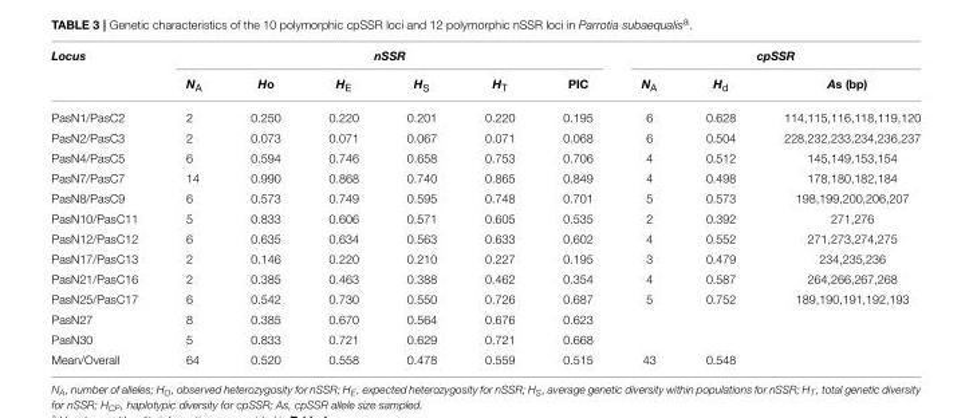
<table><thead><tr><td rowspan="2">Locus</td><td colspan="6">nSSR</td><td colspan="3">cpSSR</td></tr><tr><td>N<sub>A</sub></td><td>Ho</td><td>H<sub>E</sub></td><td>H<sub>S</sub></td><td>H<sub>T</sub></td><td>PIC</td><td>N<sub>A</sub></td><td>H<sub>d</sub></td><td>As (bp)</td></tr></thead><tbody><tr><td>PasN1/PasC2</td><td>2</td><td>0.250</td><td>0.220</td><td>0.201</td><td>0.220</td><td>0.195</td><td>6</td><td>0.628</td><td>114,115,116,118,119,120</td></tr><tr><td>PasN2/PasC3</td><td>2</td><td>0.073</td><td>0.071</td><td>0.067</td><td>0.071</td><td>0.068</td><td>6</td><td>0.504</td><td>228,232,233,234,236,237</td></tr><tr><td>PasN4/PasC5</td><td>6</td><td>0.594</td><td>0.746</td><td>0.658</td><td>0.753</td><td>0.706</td><td>4</td><td>0.512</td><td>145,149,153,154</td></tr><tr><td>PasN7/PasC7</td><td>14</td><td>0.990</td><td>0.868</td><td>0.740</td><td>0.865</td><td>0.849</td><td>4</td><td>0.498</td><td>178,180,182,184</td></tr><tr><td>PasN8/PasC9</td><td>6</td><td>0.573</td><td>0.749</td><td>0.595</td><td>0.748</td><td>0.701</td><td>5</td><td>0.573</td><td>198,199,200,206,207</td></tr><tr><td>PasN10/PasC11</td><td>5</td><td>0.833</td><td>0.606</td><td>0.571</td><td>0.605</td><td>0.535</td><td>2</td><td>0.392</td><td>271,276</td></tr><tr><td>PasN12/PasC12</td><td>6</td><td>0.635</td><td>0.634</td><td>0.563</td><td>0.633</td><td>0.602</td><td>4</td><td>0.552</td><td>271,273,274,275</td></tr><tr><td>PasN17/PasC13</td><td>2</td><td>0.146</td><td>0.220</td><td>0.210</td><td>0.227</td><td>0.195</td><td>3</td><td>0.479</td><td>234,235,236</td></tr><tr><td>PasN21/PasC16</td><td>2</td><td>0.385</td><td>0.463</td><td>0.388</td><td>0.462</td><td>0.354</td><td>4</td><td>0.587</td><td>264,266,267,268</td></tr><tr><td>PasN25/PasC17</td><td>6</td><td>0.542</td><td>0.730</td><td>0.550</td><td>0.726</td><td>0.687</td><td>5</td><td>0.752</td><td>189,190,191,192,193</td></tr><tr><td>PasN27</td><td>8</td><td>0.385</td><td>0.670</td><td>0.564</td><td>0.676</td><td>0.623</td><td></td><td></td><td></td></tr><tr><td>PasN30</td><td>5</td><td>0.833</td><td>0.721</td><td>0.629</td><td>0.721</td><td>0.668</td><td></td><td></td><td></td></tr><tr><td>Mean/Overall</td><td>64</td><td>0.520</td><td>0.558</td><td>0.478</td><td>0.559</td><td>0.515</td><td>43</td><td>0.548</td><td></td></tr></tbody></table>